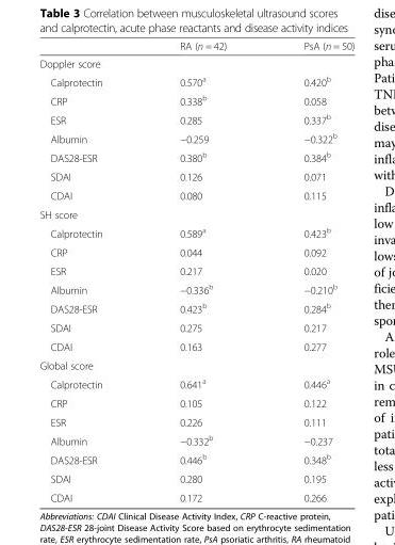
<table><thead><tr><td></td><td>RA (n = 42)</td><td>PsA (n = 50)</td></tr></thead><tbody><tr><td colspan="3">Doppler score</td></tr><tr><td>Calprotectin</td><td>0.570<sup>a</sup></td><td>0.420<sup>b</sup></td></tr><tr><td>CRP</td><td>0.338<sup>b</sup></td><td>0.058</td></tr><tr><td>ESR</td><td>0.285</td><td>0.337<sup>b</sup></td></tr><tr><td>Albumin</td><td>−0.259</td><td>−0.322<sup>b</sup></td></tr><tr><td>DAS28-ESR</td><td>0.380<sup>b</sup></td><td>0.384<sup>b</sup></td></tr><tr><td>SDAI</td><td>0.126</td><td>0.071</td></tr><tr><td>CDAI</td><td>0.080</td><td>0.115</td></tr><tr><td colspan="3">SH score</td></tr><tr><td>Calprotectin</td><td>0.589<sup>a</sup></td><td>0.423<sup>b</sup></td></tr><tr><td>CRP</td><td>0.044</td><td>0.092</td></tr><tr><td>ESR</td><td>0.217</td><td>0.020</td></tr><tr><td>Albumin</td><td>−0.336<sup>b</sup></td><td>−0.210<sup>b</sup></td></tr><tr><td>DAS28-ESR</td><td>0.423<sup>b</sup></td><td>0.284<sup>b</sup></td></tr><tr><td>SDAI</td><td>0.275</td><td>0.217</td></tr><tr><td>CDAI</td><td>0.163</td><td>0.277</td></tr><tr><td colspan="3">Global score</td></tr><tr><td>Calprotectin</td><td>0.641<sup>a</sup></td><td>0.446<sup>a</sup></td></tr><tr><td>CRP</td><td>0.105</td><td>0.122</td></tr><tr><td>ESR</td><td>0.226</td><td>0.111</td></tr><tr><td>Albumin</td><td>−0.332<sup>b</sup></td><td>−0.237</td></tr><tr><td>DAS28-ESR</td><td>0.446<sup>b</sup></td><td>0.348<sup>b</sup></td></tr><tr><td>SDAI</td><td>0.280</td><td>0.195</td></tr><tr><td>CDAI</td><td>0.172</td><td>0.266</td></tr></tbody></table>